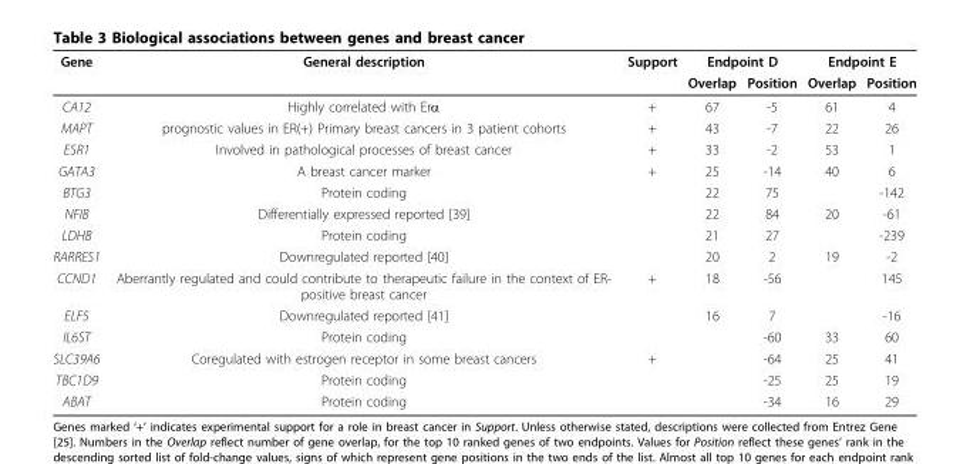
<table><thead><tr><td rowspan="2">Gene</td><td rowspan="2">General description</td><td rowspan="2">Support</td><td colspan="2">Endpoint D</td><td colspan="2">Endpoint E</td></tr><tr><td>Overlap</td><td>Position</td><td>Overlap</td><td>Position</td></tr></thead><tbody><tr><td>CA12</td><td>Highly correlated with Erα</td><td>+</td><td>67</td><td>-5</td><td>61</td><td>4</td></tr><tr><td>MAPT</td><td>prognostic values in ER(+) Primary breast cancers in 3 patient cohorts</td><td>+</td><td>43</td><td>-7</td><td>22</td><td>26</td></tr><tr><td>ESR1</td><td>Involved in pathological processes of breast cancer</td><td>+</td><td>33</td><td>-2</td><td>53</td><td>1</td></tr><tr><td>GATA3</td><td>A breast cancer marker</td><td>+</td><td>25</td><td>-14</td><td>40</td><td>6</td></tr><tr><td>BTG3</td><td>Protein coding</td><td></td><td>22</td><td>75</td><td></td><td>-142</td></tr><tr><td>NFIB</td><td>Differentially expressed reported [39]</td><td></td><td>22</td><td>84</td><td>20</td><td>-61</td></tr><tr><td>LDHB</td><td>Protein coding</td><td></td><td>21</td><td>27</td><td></td><td>-239</td></tr><tr><td>RARRES1</td><td>Downregulated reported [40]</td><td></td><td>20</td><td>2</td><td>19</td><td>-2</td></tr><tr><td>CCND1</td><td>Aberrantly regulated and could contribute to therapeutic failure in the context of ER- positive breast cancer</td><td>+</td><td>18</td><td>-56</td><td></td><td>145</td></tr><tr><td>ELF5</td><td>Downregulated reported [41]</td><td></td><td>16</td><td>7</td><td></td><td>-16</td></tr><tr><td>IL6ST</td><td>Protein coding</td><td></td><td></td><td>-60</td><td>33</td><td>60</td></tr><tr><td>SLC39A6</td><td>Coregulated with estrogen receptor in some breast cancers</td><td>+</td><td></td><td>-64</td><td>25</td><td>41</td></tr><tr><td>TBC1D9</td><td>Protein coding</td><td></td><td></td><td>-25</td><td>25</td><td>19</td></tr><tr><td>ABAT</td><td>Protein coding</td><td></td><td></td><td>-34</td><td>16</td><td>29</td></tr></tbody></table>